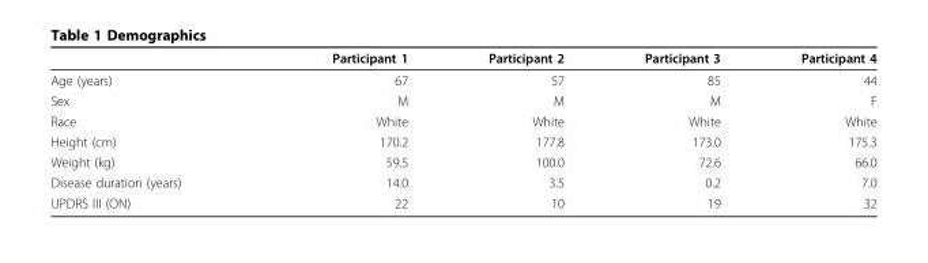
<table><thead><tr><td></td><td>Participant 1</td><td>Participant 2</td><td>Participant 3</td><td>Participant 4</td></tr></thead><tbody><tr><td>Age (years)</td><td>67</td><td>57</td><td>85</td><td>44</td></tr><tr><td>Sex</td><td>M</td><td>M</td><td>M</td><td>F</td></tr><tr><td>Race</td><td>White</td><td>White</td><td>White</td><td>White</td></tr><tr><td>Height (cm)</td><td>170.2</td><td>177.8</td><td>173.0</td><td>175.3</td></tr><tr><td>Weight (kg)</td><td>59.5</td><td>100.0</td><td>72.6</td><td>66.0</td></tr><tr><td>Disease duration (years)</td><td>14.0</td><td>3.5</td><td>0.2</td><td>7.0</td></tr><tr><td>UPDRS III (ON)</td><td>22</td><td>10</td><td>19</td><td>32</td></tr></tbody></table>